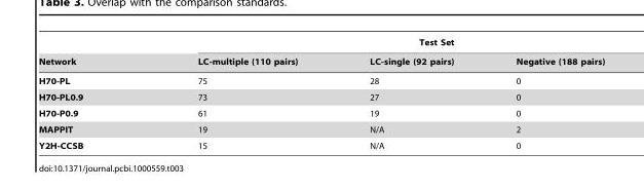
<table><thead><tr><td rowspan="2">Network</td><td colspan="3">Test Set</td></tr><tr><td>LC-multiple (110 pairs)</td><td>LC-single (92 pairs)</td><td>Negative (188 pairs)</td></tr></thead><tbody><tr><td>H70-PL</td><td>75</td><td>28</td><td>0</td></tr><tr><td>H70-PL0.9</td><td>73</td><td>27</td><td>0</td></tr><tr><td>H70-P0.9</td><td>61</td><td>19</td><td>0</td></tr><tr><td>MAPPIT</td><td>19</td><td>N/A</td><td>2</td></tr><tr><td>Y2H-CCSB</td><td>15</td><td>N/A</td><td>0</td></tr></tbody></table>